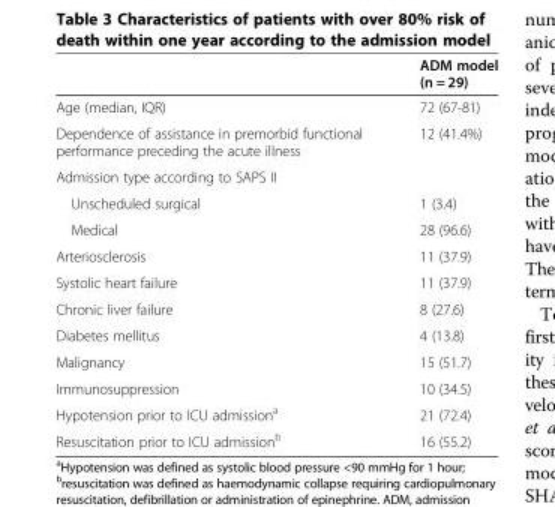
<table><thead><tr><td></td><td>ADM model (n = 29)</td></tr></thead><tbody><tr><td>Age (median, IQR)</td><td>72 (67-81)</td></tr><tr><td>Dependence of assistance in premorbid functional performance preceding the acute illness</td><td>12 (41.4%)</td></tr><tr><td colspan="2">Admission type according to SAPS II</td></tr><tr><td>Unscheduled surgical</td><td>1 (3.4)</td></tr><tr><td>Medical</td><td>28 (96.6)</td></tr><tr><td>Arteriosclerosis</td><td>11 (37.9)</td></tr><tr><td>Systolic heart failure</td><td>11 (37.9)</td></tr><tr><td>Chronic liver failure</td><td>8 (27.6)</td></tr><tr><td>Diabetes mellitus</td><td>4 (13.8)</td></tr><tr><td>Malignancy</td><td>15 (51.7)</td></tr><tr><td>Immunosuppression</td><td>10 (34.5)</td></tr><tr><td>Hypotension prior to ICU admission<sup>a</sup></td><td>21 (72.4)</td></tr><tr><td>Resuscitation prior to ICU admission<sup>b</sup></td><td>16 (55.2)</td></tr></tbody></table>